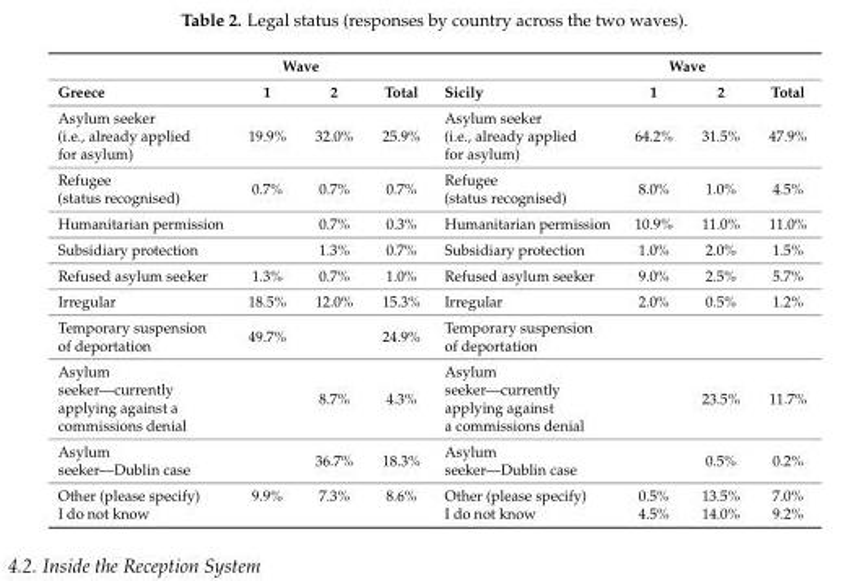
<table><thead><tr><td rowspan="2">Greece</td><td colspan="2">Wave</td><td rowspan="2">Total</td><td rowspan="2">Sicily</td><td colspan="2">Wave</td><td rowspan="2">Total</td></tr><tr><td>1</td><td>2</td><td>1</td><td>2</td></tr></thead><tbody><tr><td>Asylum seeker (i.e., already applied for asylum)</td><td>19.9%</td><td>32.0%</td><td>25.9%</td><td>Asylum seeker (i.e., already applied for asylum)</td><td>64.2%</td><td>31.5%</td><td>47.9%</td></tr><tr><td>Refugee (status recognised)</td><td>0.7%</td><td>0.7%</td><td>0.7%</td><td>Refugee (status recognised)</td><td>8.0%</td><td>1.0%</td><td>4.5%</td></tr><tr><td>Humanitarian permission</td><td></td><td>0.7%</td><td>0.3%</td><td>Humanitarian permission</td><td>10.9%</td><td>11.0%</td><td>11.0%</td></tr><tr><td>Subsidiary protection</td><td></td><td>1.3%</td><td>0.7%</td><td>Subsidiary protection</td><td>1.0%</td><td>2.0%</td><td>1.5%</td></tr><tr><td>Refused asylum seeker</td><td>1.3%</td><td>0.7%</td><td>1.0%</td><td>Refused asylum seeker</td><td>9.0%</td><td>2.5%</td><td>5.7%</td></tr><tr><td>Irregular</td><td>18.5%</td><td>12.0%</td><td>15.3%</td><td>Irregular</td><td>2.0%</td><td>0.5%</td><td>1.2%</td></tr><tr><td>Temporary suspension of deportation</td><td>49.7%</td><td></td><td>24.9%</td><td>Temporary suspension of deportation</td><td></td><td></td><td></td></tr><tr><td>Asylum seeker—currently applying against a commissions denial</td><td></td><td>8.7%</td><td>4.3%</td><td>Asylum seeker—currently applying against a commissions denial</td><td></td><td>23.5%</td><td>11.7%</td></tr><tr><td>Asylum seeker—Dublin case</td><td></td><td>36.7%</td><td>18.3%</td><td>Asylum seeker—Dublin case</td><td></td><td>0.5%</td><td>0.2%</td></tr><tr><td>Other (please specify)</td><td>9.9%</td><td>7.3%</td><td>8.6%</td><td>Other (please specify)</td><td>0.5%</td><td>13.5%</td><td>7.0%</td></tr><tr><td>I do not know</td><td></td><td></td><td></td><td>I do not know</td><td>4.5%</td><td>14.0%</td><td>9.2%</td></tr></tbody></table>